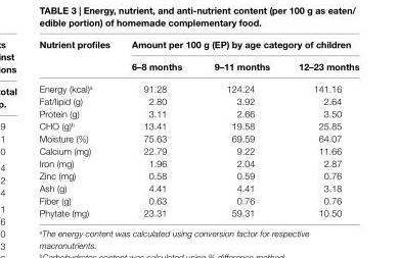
<table><thead><tr><td rowspan="2">nutrient profiles</td><td colspan="3">amount per 100 g (eP) by age category of children</td></tr><tr><td>6–8 months</td><td>9–11 months</td><td>12–23 months</td></tr></thead><tbody><tr><td>Energy (kcal)<sup>a</sup></td><td>91.28</td><td>124.24</td><td>141.16</td></tr><tr><td>Fat/lipid (g)</td><td>2.80</td><td>3.92</td><td>2.64</td></tr><tr><td>Protein (g)</td><td>3.11</td><td>2.66</td><td>3.50</td></tr><tr><td>CHO (g)<sup>b</sup></td><td>13.41</td><td>19.58</td><td>25.85</td></tr><tr><td>Moisture (%)</td><td>75.63</td><td>69.59</td><td>64.07</td></tr><tr><td>Calcium (mg)</td><td>22.79</td><td>9.22</td><td>11.66</td></tr><tr><td>Iron (mg)</td><td>1.96</td><td>2.04</td><td>2.87</td></tr><tr><td>Zinc (mg)</td><td>0.58</td><td>0.59</td><td>0.76</td></tr><tr><td>Ash (g)</td><td>4.41</td><td>4.41</td><td>3.18</td></tr><tr><td>Fiber (g)</td><td>0.63</td><td>0.76</td><td>0.76</td></tr><tr><td>Phytate (mg)</td><td>23.31</td><td>59.31</td><td>10.50</td></tr></tbody></table>